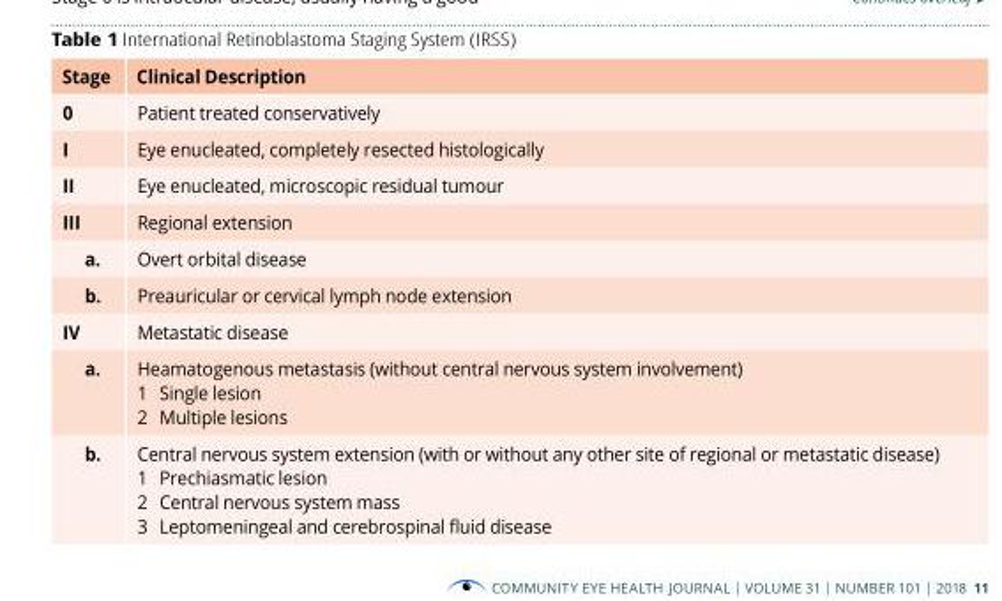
<table><thead><tr><td>Stage</td><td>Clinical Description</td></tr></thead><tbody><tr><td>0</td><td>Patient treated conservatively</td></tr><tr><td>I</td><td>Eye enucleated, completely resected histologically</td></tr><tr><td>II</td><td>Eye enucleated, microscopic residual tumour</td></tr><tr><td>III</td><td>Regional extension</td></tr><tr><td>a.</td><td>Overt orbital disease</td></tr><tr><td>b.</td><td>Preauricular or cervical lymph node extension</td></tr><tr><td>IV</td><td>Metastatic disease</td></tr><tr><td>a.</td><td>Heamatogenous metastasis (without central nervous system involvement) 1 Single lesion 2 Multiple lesions</td></tr><tr><td>b.</td><td>Central nervous system extension (with or without any other site of regional or metastatic disease) 1 Prechiasmatic lesion 2 Central nervous system mass 3 Leptomeningeal and cerebrospinal fluid disease</td></tr></tbody></table>